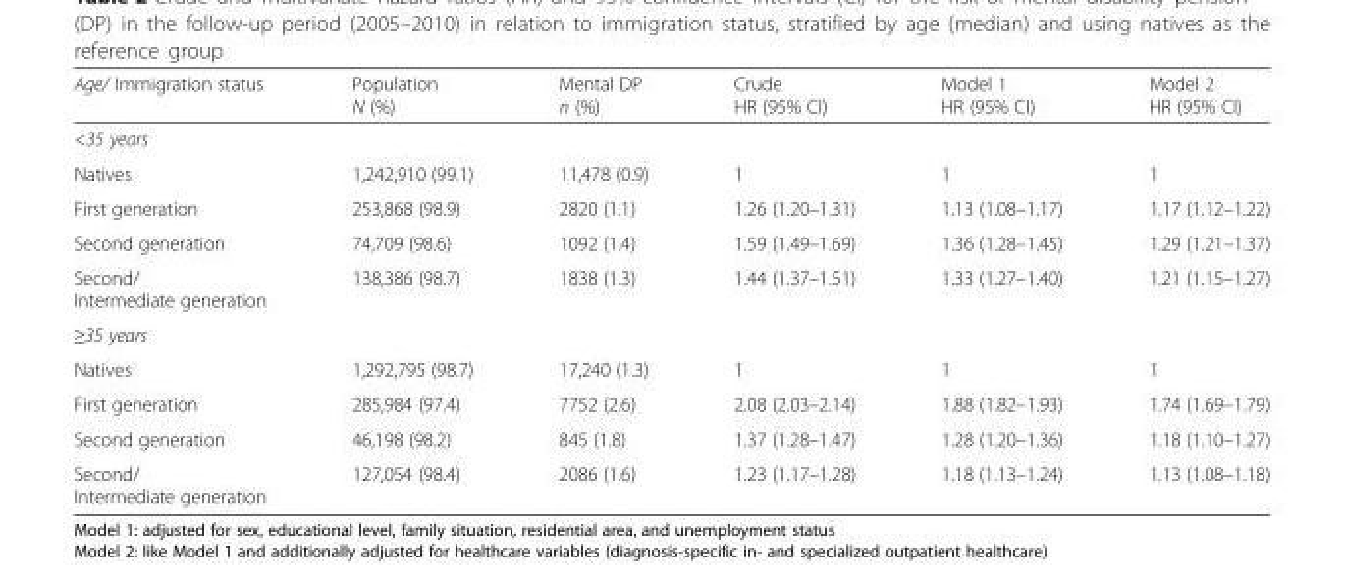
<table><thead><tr><td>Age/ Immigration status</td><td>Population N (%)</td><td>Mental DP n (%)</td><td>Crude HR (95% CI)</td><td>Model 1 HR (95% CI)</td><td>Model 2 HR (95% CI)</td></tr></thead><tbody><tr><td colspan="6">&lt;35 years</td></tr><tr><td>Natives</td><td>1,242,910 (99.1)</td><td>11,478 (0.9)</td><td>1</td><td>1</td><td>1</td></tr><tr><td>First generation</td><td>253,868 (98.9)</td><td>2820 (1.1)</td><td>1.26 (1.20–1.31)</td><td>1.13 (1.08–1.17)</td><td>1.17 (1.12–1.22)</td></tr><tr><td>Second generation</td><td>74,709 (98.6)</td><td>1092 (1.4)</td><td>1.59 (1.49–1.69)</td><td>1.36 (1.28–1.45)</td><td>1.29 (1.21–1.37)</td></tr><tr><td>Second/ Intermediate generation</td><td>138,386 (98.7)</td><td>1838 (1.3)</td><td>1.44 (1.37–1.51)</td><td>1.33 (1.27–1.40)</td><td>1.21 (1.15–1.27)</td></tr><tr><td colspan="6">≥35 years</td></tr><tr><td>Natives</td><td>1,292,795 (98.7)</td><td>17,240 (1.3)</td><td>1</td><td>1</td><td>1</td></tr><tr><td>First generation</td><td>285,984 (97.4)</td><td>7752 (2.6)</td><td>2.08 (2.03–2.14)</td><td>1.88 (1.82–1.93)</td><td>1.74 (1.69–1.79)</td></tr><tr><td>Second generation</td><td>46,198 (98.2)</td><td>845 (1.8)</td><td>1.37 (1.28–1.47)</td><td>1.28 (1.20–1.36)</td><td>1.18 (1.10–1.27)</td></tr><tr><td>Second/ Intermediate generation</td><td>127,054 (98.4)</td><td>2086 (1.6)</td><td>1.23 (1.17–1.28)</td><td>1.18 (1.13–1.24)</td><td>1.13 (1.08–1.18)</td></tr></tbody></table>